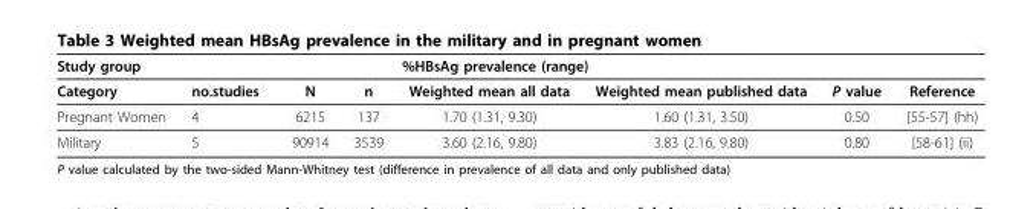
<table><thead><tr><td rowspan="2">Study group Category</td><td rowspan="2">no.studies</td><td rowspan="2">N</td><td rowspan="2">n</td><td colspan="2">%HBsAg prevalence (range)</td><td rowspan="2">P value</td><td rowspan="2">Reference</td></tr><tr><td>Weighted mean all data</td><td>Weighted mean published data</td></tr></thead><tbody><tr><td>Pregnant Women</td><td>4</td><td>6215</td><td>137</td><td>1.70 (1.31, 9.30)</td><td>1.60 (1.31, 3.50)</td><td>0.50</td><td>[55-57] (hh)</td></tr><tr><td>Military</td><td>5</td><td>90914</td><td>3539</td><td>3.60 (2.16, 9.80)</td><td>3.83 (2.16, 9.80)</td><td>0.80</td><td>[58-61] (ii)</td></tr></tbody></table>